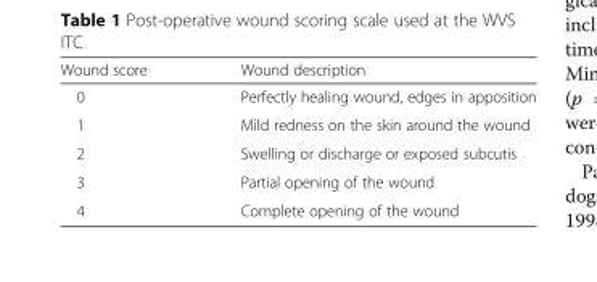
<table><thead><tr><td>Wound score</td><td>Wound description</td></tr></thead><tbody><tr><td>0</td><td>Perfectly healing wound, edges in apposition</td></tr><tr><td>1</td><td>Mild redness on the skin around the wound</td></tr><tr><td>2</td><td>Swelling or discharge or exposed subcutis</td></tr><tr><td>3</td><td>Partial opening of the wound</td></tr><tr><td>4</td><td>Complete opening of the wound</td></tr></tbody></table>